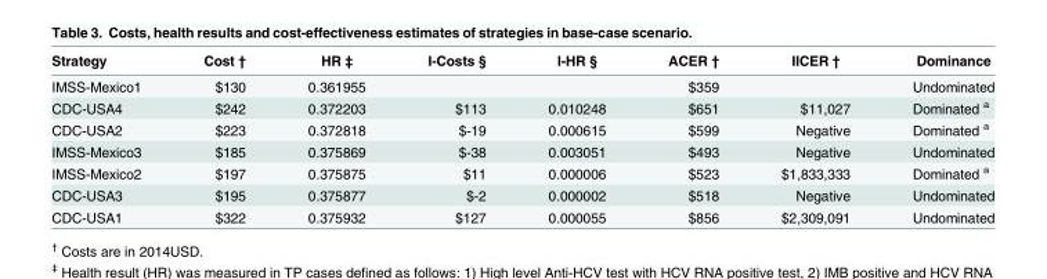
<table><thead><tr><td>Strategy</td><td>Cost †</td><td>HR ‡</td><td>I-Costs §</td><td>I-HR §</td><td>ACER †</td><td>IICER †</td><td>Dominance</td></tr></thead><tbody><tr><td>IMSS-Mexico1</td><td>$130</td><td>0.361955</td><td></td><td></td><td>$359</td><td></td><td>Undominated</td></tr><tr><td>CDC-USA4</td><td>$242</td><td>0.372203</td><td>$113</td><td>0.010248</td><td>$651</td><td>$11,027</td><td>Dominated <sup>a</sup></td></tr><tr><td>CDC-USA2</td><td>$223</td><td>0.372818</td><td>$-19</td><td>0.000615</td><td>$599</td><td>Negative</td><td>Dominated <sup>a</sup></td></tr><tr><td>IMSS-Mexico3</td><td>$185</td><td>0.375869</td><td>$-38</td><td>0.003051</td><td>$493</td><td>Negative</td><td>Undominated</td></tr><tr><td>IMSS-Mexico2</td><td>$197</td><td>0.375875</td><td>$11</td><td>0.000006</td><td>$523</td><td>$1,833,333</td><td>Dominated <sup>a</sup></td></tr><tr><td>CDC-USA3</td><td>$195</td><td>0.375877</td><td>$-2</td><td>0.000002</td><td>$518</td><td>Negative</td><td>Undominated</td></tr><tr><td>CDC-USA1</td><td>$322</td><td>0.375932</td><td>$127</td><td>0.000055</td><td>$856</td><td>$2,309,091</td><td>Undominated</td></tr></tbody></table>